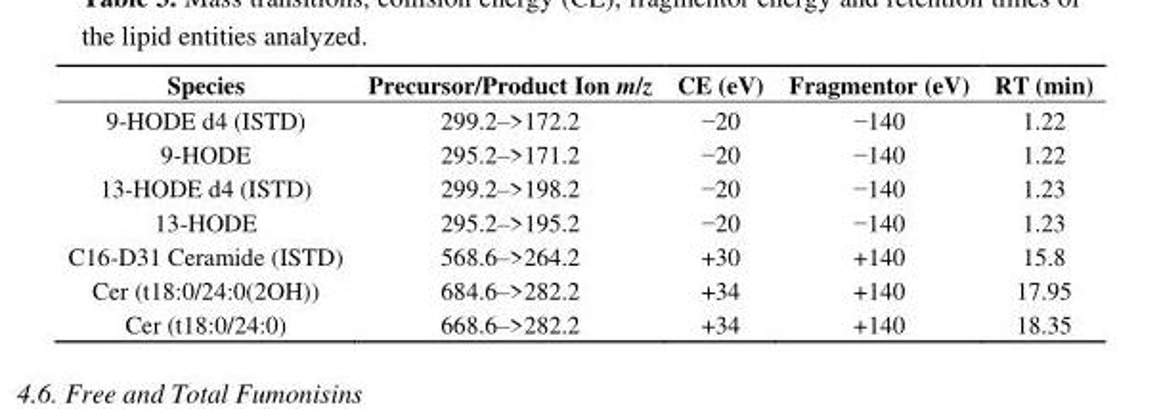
<table><thead><tr><td>Species</td><td>Precursor/Product Ion m/z</td><td>CE (eV)</td><td>Fragmentor (eV)</td><td>RT (min)</td></tr></thead><tbody><tr><td>9-HODE d4 (ISTD)</td><td>299.2–&gt;172.2</td><td>−20</td><td>−140</td><td>1.22</td></tr><tr><td>9-HODE</td><td>295.2–&gt;171.2</td><td>−20</td><td>−140</td><td>1.22</td></tr><tr><td>13-HODE d4 (ISTD)</td><td>299.2–&gt;198.2</td><td>−20</td><td>−140</td><td>1.23</td></tr><tr><td>13-HODE</td><td>295.2–&gt;195.2</td><td>−20</td><td>−140</td><td>1.23</td></tr><tr><td>C16-D31 Ceramide (ISTD)</td><td>568.6–&gt;264.2</td><td>+30</td><td>+140</td><td>15.8</td></tr><tr><td>Cer (t18:0/24:0(2OH))</td><td>684.6–&gt;282.2</td><td>+34</td><td>+140</td><td>17.95</td></tr><tr><td>Cer (t18:0/24:0)</td><td>668.6–&gt;282.2</td><td>+34</td><td>+140</td><td>18.35</td></tr></tbody></table>